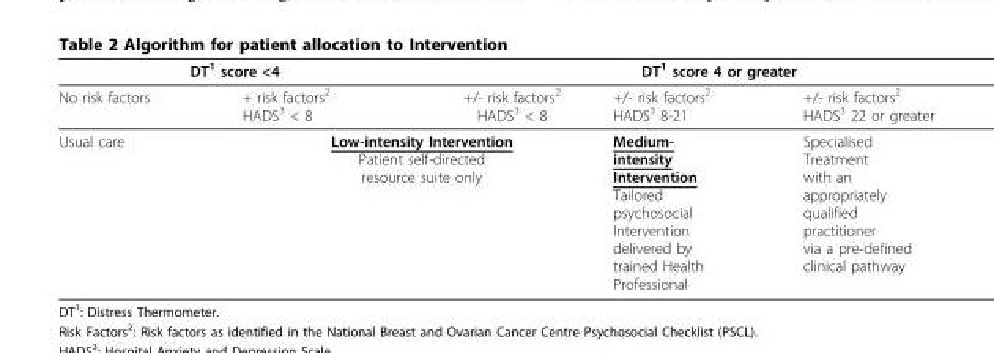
<table><thead><tr><td colspan="2">DT<sup>1</sup> score &lt;4</td><td colspan="3">DT<sup>1</sup> score 4 or greater</td></tr><tr><td>No risk factors</td><td>+ risk factors<sup>2</sup> HADS<sup>3</sup> &lt; 8</td><td>+/- risk factors<sup>2</sup> HADS<sup>3</sup> &lt; 8</td><td>+/- risk factors<sup>2</sup> HADS<sup>3</sup> 8-21</td><td>+/- risk factors<sup>2</sup> HADS<sup>3</sup> 22 or greater</td></tr></thead><tbody><tr><td>Usual care</td><td colspan="2">Low-intensity Intervention Patient self-directed resource suite only</td><td>Medium- intensity Intervention Tailored psychosocial Intervention delivered by trained Health Professional</td><td>Specialised Treatment with an appropriately qualified practitioner via a pre-defined clinical pathway</td></tr></tbody></table>